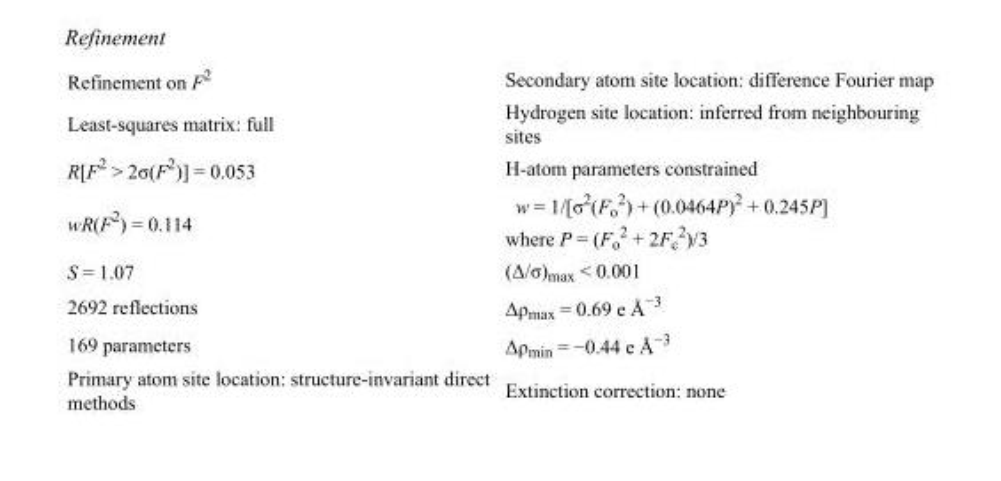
<table><tbody><tr><td>Refinement on F<sup>2</sup></td><td>Secondary atom site location: difference Fourier map</td></tr><tr><td>Least-squares matrix: full</td><td>Hydrogen site location: inferred from neighbouring sites</td></tr><tr><td>R[F<sup>2</sup> &gt; 2σ(F<sup>2</sup>)] = 0.053</td><td>H-atom parameters constrained</td></tr><tr><td>wR(F<sup>2</sup>) = 0.114</td><td>w = 1/[σ<sup>2</sup>(F<sub>o</sub> <sup>2</sup>) + (0.0464P)<sup>2</sup> + 0.245P] where P = (F<sub>o</sub> <sup>2</sup> + 2F<sub>c</sub> <sup>2</sup>)/3</td></tr><tr><td>S = 1.07</td><td>(Δ/σ)<sub>max</sub> &lt; 0.001</td></tr><tr><td>2692 reflections</td><td>Δρ<sub>max</sub> = 0.69 e Å<sup>−3</sup></td></tr><tr><td>169 parameters</td><td>Δρ<sub>min</sub> = −0.44 e Å<sup>−3</sup></td></tr><tr><td>Primary atom site location: structure-invariant direct methods</td><td>Extinction correction: none</td></tr></tbody></table>